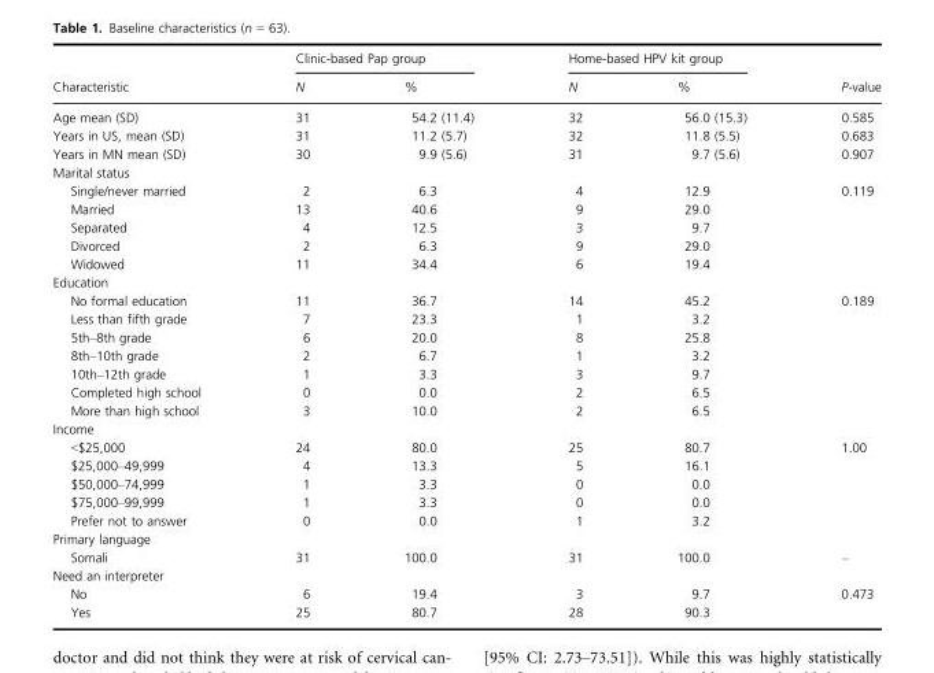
<table><thead><tr><td rowspan="2">Characteristic</td><td colspan="2">Clinic-based Pap group</td><td colspan="2">Home-based HPV kit group</td><td rowspan="2">P-value</td></tr><tr><td>N</td><td>%</td><td>N</td><td>%</td></tr></thead><tbody><tr><td>Age mean (SD)</td><td>31</td><td>54.2 (11.4)</td><td>32</td><td>56.0 (15.3)</td><td>0.585</td></tr><tr><td>Years in US, mean (SD)</td><td>31</td><td>11.2 (5.7)</td><td>32</td><td>11.8 (5.5)</td><td>0.683</td></tr><tr><td>Years in MN mean (SD)</td><td>30</td><td>9.9 (5.6)</td><td>31</td><td>9.7 (5.6)</td><td>0.907</td></tr><tr><td colspan="6">Marital status</td></tr><tr><td>Single/never married</td><td>2</td><td>6.3</td><td>4</td><td>12.9</td><td rowspan="5">0.119</td></tr><tr><td>Married</td><td>13</td><td>40.6</td><td>9</td><td>29.0</td></tr><tr><td>Separated</td><td>4</td><td>12.5</td><td>3</td><td>9.7</td></tr><tr><td>Divorced</td><td>2</td><td>6.3</td><td>9</td><td>29.0</td></tr><tr><td>Widowed</td><td>11</td><td>34.4</td><td>6</td><td>19.4</td></tr><tr><td colspan="6">Education</td></tr><tr><td>No formal education</td><td>11</td><td>36.7</td><td>14</td><td>45.2</td><td rowspan="7">0.189</td></tr><tr><td>Less than fifth grade</td><td>7</td><td>23.3</td><td>1</td><td>3.2</td></tr><tr><td>5th–8th grade</td><td>6</td><td>20.0</td><td>8</td><td>25.8</td></tr><tr><td>8th–10th grade</td><td>2</td><td>6.7</td><td>1</td><td>3.2</td></tr><tr><td>10th–12th grade</td><td>1</td><td>3.3</td><td>3</td><td>9.7</td></tr><tr><td>Completed high school</td><td>0</td><td>0.0</td><td>2</td><td>6.5</td></tr><tr><td>More than high school</td><td>3</td><td>10.0</td><td>2</td><td>6.5</td></tr><tr><td colspan="6">Income</td></tr><tr><td>&lt;$25,000</td><td>24</td><td>80.0</td><td>25</td><td>80.7</td><td rowspan="5">1.00</td></tr><tr><td>$25,000–49,999</td><td>4</td><td>13.3</td><td>5</td><td>16.1</td></tr><tr><td>$50,000–74,999</td><td>1</td><td>3.3</td><td>0</td><td>0.0</td></tr><tr><td>$75,000–99,999</td><td>1</td><td>3.3</td><td>0</td><td>0.0</td></tr><tr><td>Prefer not to answer</td><td>0</td><td>0.0</td><td>1</td><td>3.2</td></tr><tr><td colspan="6">Primary language</td></tr><tr><td>Somali</td><td>31</td><td>100.0</td><td>31</td><td>100.0</td><td>–</td></tr><tr><td colspan="6">Need an interpreter</td></tr><tr><td>No</td><td>6</td><td>19.4</td><td>3</td><td>9.7</td><td rowspan="2">0.473</td></tr><tr><td>Yes</td><td>25</td><td>80.7</td><td>28</td><td>90.3</td></tr></tbody></table>